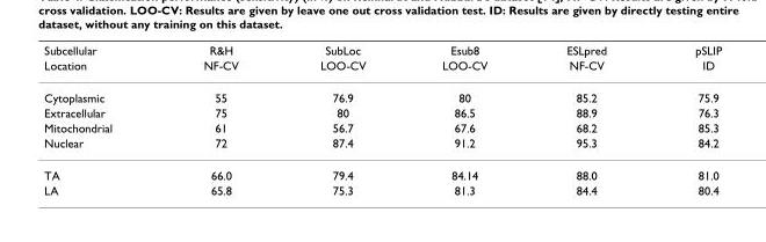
<table><thead><tr><td rowspan="2">Subcellular Location</td><td rowspan="2">R&amp;H NF-CV</td><td rowspan="2">SubLoc LOO-CV</td><td rowspan="2">Esub8 LOO-CV</td><td rowspan="2">ESLpred NF-CV</td><td rowspan="2">pSLIP ID</td></tr><tr></tr></thead><tbody><tr><td>Cytoplasmic</td><td>55</td><td>76.9</td><td>80</td><td>85.2</td><td>75.9</td></tr><tr><td>Extracellular</td><td>75</td><td>80</td><td>86.5</td><td>88.9</td><td>76.3</td></tr><tr><td>Mitochondrial</td><td>61</td><td>56.7</td><td>67.6</td><td>68.2</td><td>85.3</td></tr><tr><td>Nuclear</td><td>72</td><td>87.4</td><td>91.2</td><td>95.3</td><td>84.2</td></tr><tr><td>TA</td><td>66.0</td><td>79.4</td><td>84.14</td><td>88.0</td><td>81.0</td></tr><tr><td>LA</td><td>65.8</td><td>75.3</td><td>81.3</td><td>84.4</td><td>80.4</td></tr></tbody></table>